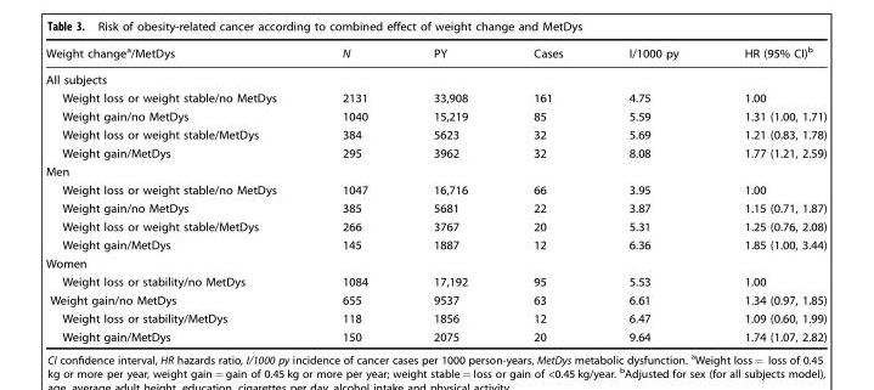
<table><thead><tr><td>Weight change<sup>a</sup>/MetDys</td><td>N</td><td>PY</td><td>Cases</td><td>I/1000 py</td><td>HR (95% CI)<sup>b</sup></td></tr></thead><tbody><tr><td colspan="6">All subjects</td></tr><tr><td>Weight loss or weight stable/no MetDys</td><td>2131</td><td>33,908</td><td>161</td><td>4.75</td><td>1.00</td></tr><tr><td>Weight gain/no MetDys</td><td>1040</td><td>15,219</td><td>85</td><td>5.59</td><td>1.31 (1.00, 1.71)</td></tr><tr><td>Weight loss or weight stable/MetDys</td><td>384</td><td>5623</td><td>32</td><td>5.69</td><td>1.21 (0.83, 1.78)</td></tr><tr><td>Weight gain/MetDys</td><td>295</td><td>3962</td><td>32</td><td>8.08</td><td>1.77 (1.21, 2.59)</td></tr><tr><td colspan="6">Men</td></tr><tr><td>Weight loss or weight stable/no MetDys</td><td>1047</td><td>16,716</td><td>66</td><td>3.95</td><td>1.00</td></tr><tr><td>Weight gain/no MetDys</td><td>385</td><td>5681</td><td>22</td><td>3.87</td><td>1.15 (0.71, 1.87)</td></tr><tr><td>Weight loss or weight stable/MetDys</td><td>266</td><td>3767</td><td>20</td><td>5.31</td><td>1.25 (0.76, 2.08)</td></tr><tr><td>Weight gain/MetDys</td><td>145</td><td>1887</td><td>12</td><td>6.36</td><td>1.85 (1.00, 3.44)</td></tr><tr><td colspan="6">Women</td></tr><tr><td>Weight loss or stability/no MetDys</td><td>1084</td><td>17,192</td><td>95</td><td>5.53</td><td>1.00</td></tr><tr><td>Weight gain/no MetDys</td><td>655</td><td>9537</td><td>63</td><td>6.61</td><td>1.34 (0.97, 1.85)</td></tr><tr><td>Weight loss or stability/MetDys</td><td>118</td><td>1856</td><td>12</td><td>6.47</td><td>1.09 (0.60, 1.99)</td></tr><tr><td>Weight gain/MetDys</td><td>150</td><td>2075</td><td>20</td><td>9.64</td><td>1.74 (1.07, 2.82)</td></tr></tbody></table>